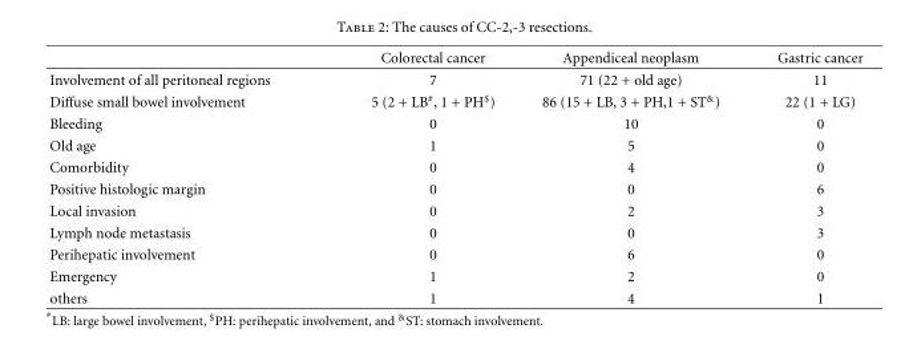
<table><thead><tr><td></td><td>Colorectal cancer</td><td>Appendiceal neoplasm</td><td>Gastric cancer</td></tr></thead><tbody><tr><td>Involvement of all peritoneal regions</td><td>7</td><td>71 (22 + old age)</td><td>11</td></tr><tr><td>Diffuse small bowel involvement</td><td>5 (2 + LB<sup>#</sup>, 1 + PH<sup>$</sup>)</td><td>86 (15 + LB, 3 + PH,1 + ST<sup>&amp;</sup>)</td><td>22 (1 + LG)</td></tr><tr><td>Bleeding</td><td>0</td><td>10</td><td>0</td></tr><tr><td>Old age</td><td>1</td><td>5</td><td>0</td></tr><tr><td>Comorbidity</td><td>0</td><td>4</td><td>0</td></tr><tr><td>Positive histologic margin</td><td>0</td><td>0</td><td>6</td></tr><tr><td>Local invasion</td><td>0</td><td>2</td><td>3</td></tr><tr><td>Lymph node metastasis</td><td>0</td><td>0</td><td>3</td></tr><tr><td>Perihepatic involvement</td><td>0</td><td>6</td><td>0</td></tr><tr><td>Emergency</td><td>1</td><td>2</td><td>0</td></tr><tr><td>others</td><td>1</td><td>4</td><td>1</td></tr></tbody></table>